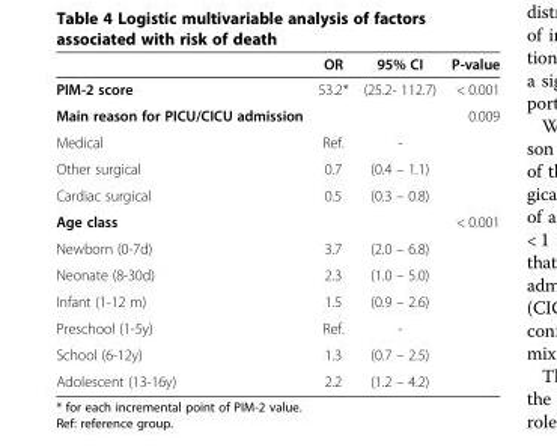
<table><thead><tr><td></td><td>OR</td><td>95% CI</td><td>P-value</td></tr></thead><tbody><tr><td>PIM-2 score</td><td>53.2*</td><td>(25.2- 112.7)</td><td>&lt; 0.001</td></tr><tr><td>Main reason for PICU/CICU admission</td><td></td><td></td><td>0.009</td></tr><tr><td>Medical</td><td>Ref.</td><td>-</td><td></td></tr><tr><td>Other surgical</td><td>0.7</td><td>(0.4 – 1.1)</td><td></td></tr><tr><td>Cardiac surgical</td><td>0.5</td><td>(0.3 – 0.8)</td><td></td></tr><tr><td>Age class</td><td></td><td></td><td>&lt; 0.001</td></tr><tr><td>Newborn (0-7d)</td><td>3.7</td><td>(2.0 – 6.8)</td><td></td></tr><tr><td>Neonate (8-30d)</td><td>2.3</td><td>(1.0 – 5.0)</td><td></td></tr><tr><td>Infant (1-12 m)</td><td>1.5</td><td>(0.9 – 2.6)</td><td></td></tr><tr><td>Preschool (1-5y)</td><td>Ref.</td><td>-</td><td></td></tr><tr><td>School (6-12y)</td><td>1.3</td><td>(0.7 – 2.5)</td><td></td></tr><tr><td>Adolescent (13-16y)</td><td>2.2</td><td>(1.2 – 4.2)</td><td></td></tr></tbody></table>